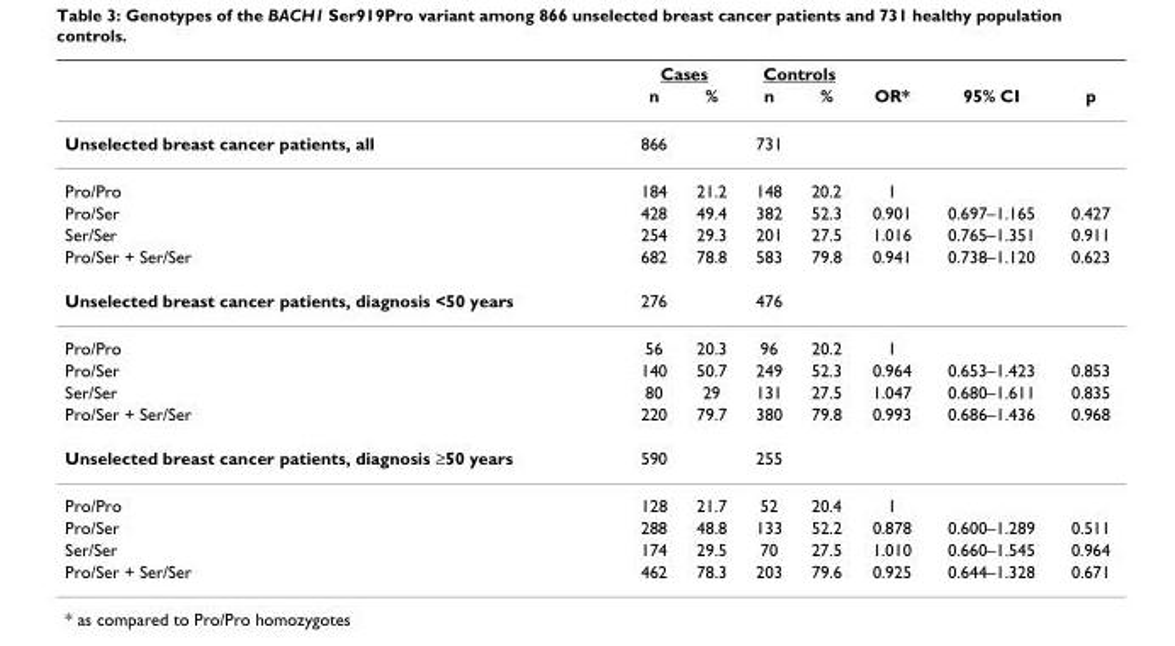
<table><thead><tr><td rowspan="2"></td><td colspan="2">Cases</td><td colspan="2">Controls</td><td rowspan="2">OR*</td><td rowspan="2">95% CI</td><td rowspan="2">p</td></tr><tr><td>n</td><td>%</td><td>n</td><td>%</td></tr></thead><tbody><tr><td>Unselected breast cancer patients, all</td><td>866</td><td></td><td>731</td><td></td><td></td><td></td><td></td></tr><tr><td>Pro/Pro</td><td>184</td><td>21.2</td><td>148</td><td>20.2</td><td>1</td><td></td><td></td></tr><tr><td>Pro/Ser</td><td>428</td><td>49.4</td><td>382</td><td>52.3</td><td>0.901</td><td>0.697–1.165</td><td>0.427</td></tr><tr><td>Ser/Ser</td><td>254</td><td>29.3</td><td>201</td><td>27.5</td><td>1.016</td><td>0.765–1.351</td><td>0.911</td></tr><tr><td>Pro/Ser + Ser/Ser</td><td>682</td><td>78.8</td><td>583</td><td>79.8</td><td>0.941</td><td>0.738–1.120</td><td>0.623</td></tr><tr><td>Unselected breast cancer patients, diagnosis &lt;50 years</td><td>276</td><td></td><td>476</td><td></td><td></td><td></td><td></td></tr><tr><td>Pro/Pro</td><td>56</td><td>20.3</td><td>96</td><td>20.2</td><td>1</td><td></td><td></td></tr><tr><td>Pro/Ser</td><td>140</td><td>50.7</td><td>249</td><td>52.3</td><td>0.964</td><td>0.653–1.423</td><td>0.853</td></tr><tr><td>Ser/Ser</td><td>80</td><td>29</td><td>131</td><td>27.5</td><td>1.047</td><td>0.680–1.611</td><td>0.835</td></tr><tr><td>Pro/Ser + Ser/Ser</td><td>220</td><td>79.7</td><td>380</td><td>79.8</td><td>0.993</td><td>0.686–1.436</td><td>0.968</td></tr><tr><td>Unselected breast cancer patients, diagnosis ≥50 years</td><td>590</td><td></td><td>255</td><td></td><td></td><td></td><td></td></tr><tr><td>Pro/Pro</td><td>128</td><td>21.7</td><td>52</td><td>20.4</td><td>1</td><td></td><td></td></tr><tr><td>Pro/Ser</td><td>288</td><td>48.8</td><td>133</td><td>52.2</td><td>0.878</td><td>0.600–1.289</td><td>0.511</td></tr><tr><td>Ser/Ser</td><td>174</td><td>29.5</td><td>70</td><td>27.5</td><td>1.010</td><td>0.660–1.545</td><td>0.964</td></tr><tr><td>Pro/Ser + Ser/Ser</td><td>462</td><td>78.3</td><td>203</td><td>79.6</td><td>0.925</td><td>0.644–1.328</td><td>0.671</td></tr></tbody></table>